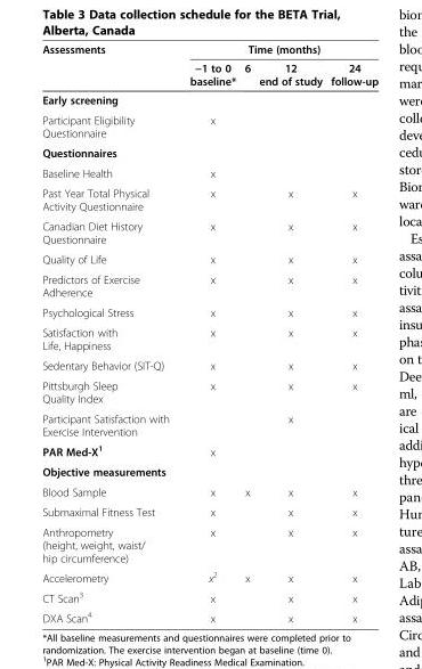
<table><thead><tr><td rowspan="2">Assessments</td><td colspan="4">Time (months)</td></tr><tr><td>−1 to 0 baseline*</td><td>6</td><td>12 end of study</td><td>24 follow-up</td></tr></thead><tbody><tr><td colspan="5">Early screening</td></tr><tr><td>Participant Eligibility Questionnaire</td><td>x</td><td></td><td></td><td></td></tr><tr><td colspan="5">Questionnaires</td></tr><tr><td>Baseline Health</td><td>x</td><td></td><td></td><td></td></tr><tr><td>Past Year Total Physical Activity Questionnaire</td><td>x</td><td></td><td>x</td><td>x</td></tr><tr><td>Canadian Diet History Questionnaire</td><td>x</td><td></td><td>x</td><td>x</td></tr><tr><td>Quality of Life</td><td>x</td><td></td><td>x</td><td>x</td></tr><tr><td>Predictors of Exercise Adherence</td><td>x</td><td></td><td>x</td><td>x</td></tr><tr><td>Psychological Stress</td><td>x</td><td></td><td>x</td><td>x</td></tr><tr><td>Satisfaction with Life, Happiness</td><td>x</td><td></td><td>x</td><td>x</td></tr><tr><td>Sedentary Behavior (SIT-Q)</td><td>x</td><td></td><td>x</td><td>x</td></tr><tr><td>Pittsburgh Sleep Quality Index</td><td>x</td><td></td><td>x</td><td>x</td></tr><tr><td>Participant Satisfaction with Exercise Intervention</td><td></td><td></td><td>x</td><td></td></tr><tr><td>PAR Med-X<sup>1</sup></td><td>x</td><td></td><td></td><td></td></tr><tr><td colspan="5">Objective measurements</td></tr><tr><td>Blood Sample</td><td>x</td><td>x</td><td>x</td><td>x</td></tr><tr><td>Submaximal Fitness Test</td><td>x</td><td></td><td>x</td><td>x</td></tr><tr><td>Anthropometry (height, weight, waist/ hip circumference)</td><td>x</td><td></td><td>x</td><td>x</td></tr><tr><td>Accelerometry</td><td>x<sup>2</sup></td><td>x</td><td>x</td><td>x</td></tr><tr><td>CT Scan<sup>3</sup></td><td>x</td><td></td><td>x</td><td>x</td></tr><tr><td>DXA Scan<sup>4</sup></td><td>x</td><td></td><td>x</td><td>x</td></tr></tbody></table>